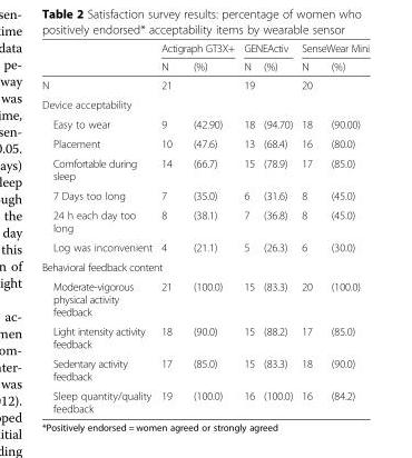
<table><thead><tr><td rowspan="2"></td><td colspan="2">Actigraph GT3X+</td><td colspan="2">GENEActiv</td><td colspan="2">SenseWear Mini</td></tr><tr><td>N</td><td>(%)</td><td>N</td><td>(%)</td><td>N</td><td>(%)</td></tr></thead><tbody><tr><td>N</td><td colspan="2">21</td><td colspan="2">19</td><td colspan="2">20</td></tr><tr><td colspan="7">Device acceptability</td></tr><tr><td>Easy to wear</td><td>9</td><td>(42.90)</td><td>18</td><td>(94.70)</td><td>18</td><td>(90.00)</td></tr><tr><td>Placement</td><td>10</td><td>(47.6)</td><td>13</td><td>(68.4)</td><td>16</td><td>(80.0)</td></tr><tr><td>Comfortable during sleep</td><td>14</td><td>(66.7)</td><td>15</td><td>(78.9)</td><td>17</td><td>(85.0)</td></tr><tr><td>7 Days too long</td><td>7</td><td>(35.0)</td><td>6</td><td>(31.6)</td><td>8</td><td>(45.0)</td></tr><tr><td>24 h each day too long</td><td>8</td><td>(38.1)</td><td>7</td><td>(36.8)</td><td>8</td><td>(45.0)</td></tr><tr><td>Log was inconvenient</td><td>4</td><td>(21.1)</td><td>5</td><td>(26.3)</td><td>6</td><td>(30.0)</td></tr><tr><td colspan="7">Behavioral feedback content</td></tr><tr><td>Moderate-vigorous physical activity feedback</td><td>21</td><td>(100.0)</td><td>15</td><td>(83.3)</td><td>20</td><td>(100.0)</td></tr><tr><td>Light intensity activity feedback</td><td>18</td><td>(90.0)</td><td>15</td><td>(88.2)</td><td>17</td><td>(85.0)</td></tr><tr><td>Sedentary activity feedback</td><td>17</td><td>(85.0)</td><td>15</td><td>(83.3)</td><td>18</td><td>(90.0)</td></tr><tr><td>Sleep quantity/quality feedback</td><td>19</td><td>(100.0)</td><td>16</td><td>(100.0)</td><td>16</td><td>(84.2)</td></tr></tbody></table>